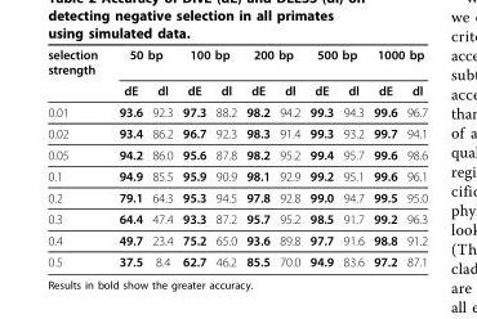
<table><thead><tr><td rowspan="2">selection strength</td><td colspan="2">50 bp</td><td colspan="2">100 bp</td><td colspan="2">200 bp</td><td colspan="2">500 bp</td><td colspan="2">1000 bp</td></tr><tr><td>dE</td><td>dl</td><td>dE</td><td>dl</td><td>dE</td><td>dl</td><td>dE</td><td>dl</td><td>dE</td><td>dl</td></tr></thead><tbody><tr><td>0.01</td><td>93.6</td><td>92.3</td><td>97.3</td><td>88.2</td><td>98.2</td><td>94.2</td><td>99.3</td><td>94.3</td><td>99.6</td><td>96.7</td></tr><tr><td>0.02</td><td>93.4</td><td>86.2</td><td>96.7</td><td>92.3</td><td>98.3</td><td>91.4</td><td>99.3</td><td>93.2</td><td>99.7</td><td>94.1</td></tr><tr><td>0.05</td><td>94.2</td><td>86.0</td><td>95.6</td><td>87.8</td><td>98.2</td><td>95.2</td><td>99.4</td><td>95.7</td><td>99.6</td><td>98.6</td></tr><tr><td>0.1</td><td>94.9</td><td>85.5</td><td>95.9</td><td>90.9</td><td>98.1</td><td>92.9</td><td>99.2</td><td>95.1</td><td>99.6</td><td>96.1</td></tr><tr><td>0.2</td><td>79.1</td><td>64.3</td><td>95.3</td><td>94.5</td><td>97.8</td><td>92.8</td><td>99.0</td><td>94.7</td><td>99.5</td><td>95.0</td></tr><tr><td>0.3</td><td>64.4</td><td>47.4</td><td>93.3</td><td>87.2</td><td>95.7</td><td>95.2</td><td>98.5</td><td>91.7</td><td>99.2</td><td>96.3</td></tr><tr><td>0.4</td><td>49.7</td><td>23.4</td><td>75.2</td><td>65.0</td><td>93.6</td><td>89.8</td><td>97.7</td><td>91.6</td><td>98.8</td><td>91.2</td></tr><tr><td>0.5</td><td>37.5</td><td>8.4</td><td>62.7</td><td>46.2</td><td>85.5</td><td>70.0</td><td>94.9</td><td>83.6</td><td>97.2</td><td>87.1</td></tr></tbody></table>